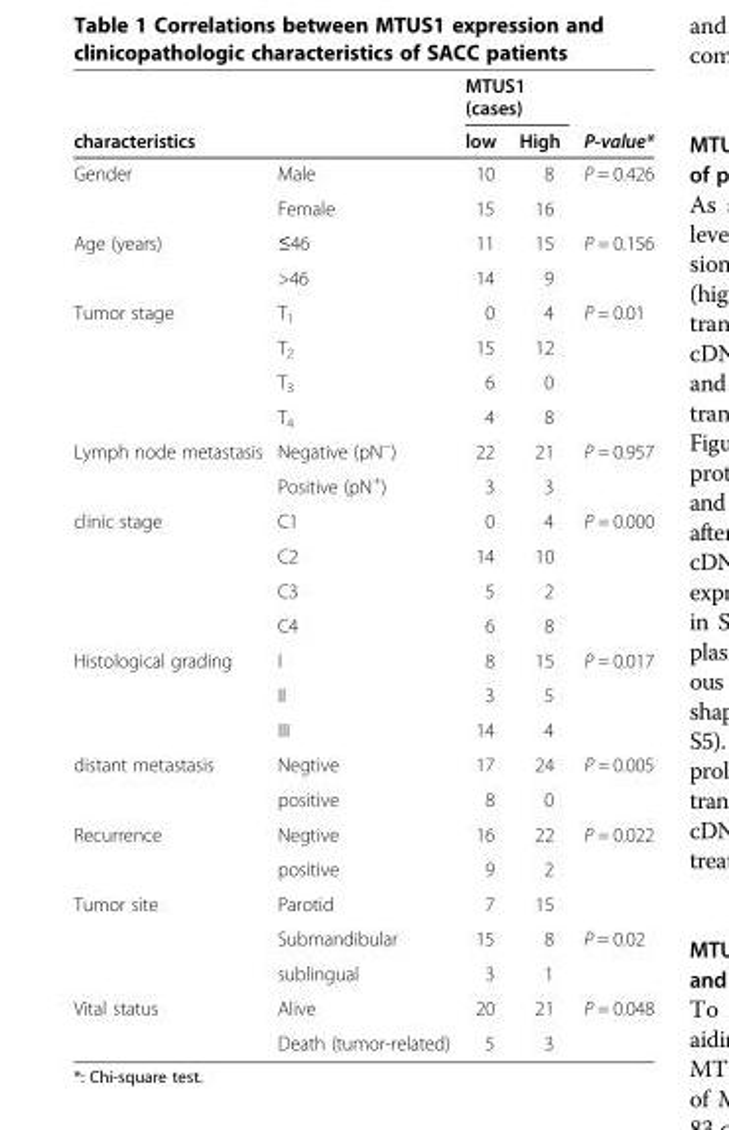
<table><thead><tr><td rowspan="2">characteristics</td><td rowspan="2"></td><td colspan="2">MTUS1 (cases)</td><td rowspan="2">P-value*</td></tr><tr><td>low</td><td>High</td></tr></thead><tbody><tr><td rowspan="2">Gender</td><td>Male</td><td>10</td><td>8</td><td>P = 0.426</td></tr><tr><td>Female</td><td>15</td><td>16</td><td></td></tr><tr><td rowspan="2">Age (years)</td><td>≤46</td><td>11</td><td>15</td><td>P = 0.156</td></tr><tr><td>&gt;46</td><td>14</td><td>9</td><td></td></tr><tr><td rowspan="4">Tumor stage</td><td>T<sub>1</sub></td><td>0</td><td>4</td><td>P = 0.01</td></tr><tr><td>T<sub>2</sub></td><td>15</td><td>12</td><td></td></tr><tr><td>T<sub>3</sub></td><td>6</td><td>0</td><td></td></tr><tr><td>T<sub>4</sub></td><td>4</td><td>8</td><td></td></tr><tr><td rowspan="2">Lymph node metastasis</td><td>Negative (pN<sup>−</sup>)</td><td>22</td><td>21</td><td>P = 0.957</td></tr><tr><td>Positive (pN<sup>+</sup>)</td><td>3</td><td>3</td><td></td></tr><tr><td rowspan="4">clinic stage</td><td>C1</td><td>0</td><td>4</td><td>P = 0.000</td></tr><tr><td>C2</td><td>14</td><td>10</td><td></td></tr><tr><td>C3</td><td>5</td><td>2</td><td></td></tr><tr><td>C4</td><td>6</td><td>8</td><td></td></tr><tr><td rowspan="3">Histological grading</td><td>I</td><td>8</td><td>15</td><td>P = 0.017</td></tr><tr><td>II</td><td>3</td><td>5</td><td></td></tr><tr><td>III</td><td>14</td><td>4</td><td></td></tr><tr><td rowspan="2">distant metastasis</td><td>Negtive</td><td>17</td><td>24</td><td>P = 0.005</td></tr><tr><td>positive</td><td>8</td><td>0</td><td></td></tr><tr><td rowspan="2">Recurrence</td><td>Negtive</td><td>16</td><td>22</td><td>P = 0.022</td></tr><tr><td>positive</td><td>9</td><td>2</td><td></td></tr><tr><td rowspan="3">Tumor site</td><td>Parotid</td><td>7</td><td>15</td><td></td></tr><tr><td>Submandibular</td><td>15</td><td>8</td><td>P = 0.02</td></tr><tr><td>sublingual</td><td>3</td><td>1</td><td></td></tr><tr><td rowspan="2">Vital status</td><td>Alive</td><td>20</td><td>21</td><td>P = 0.048</td></tr><tr><td>Death (tumor-related)</td><td>5</td><td>3</td><td></td></tr></tbody></table>